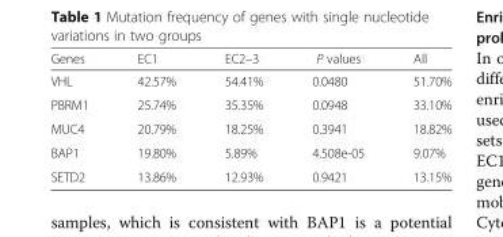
<table><thead><tr><td>Genes</td><td>EC1</td><td>EC2–3</td><td>P values</td><td>All</td></tr></thead><tbody><tr><td>VHL</td><td>42.57%</td><td>54.41%</td><td>0.0480</td><td>51.70%</td></tr><tr><td>PBRM1</td><td>25.74%</td><td>35.35%</td><td>0.0948</td><td>33.10%</td></tr><tr><td>MUC4</td><td>20.79%</td><td>18.25%</td><td>0.3941</td><td>18.82%</td></tr><tr><td>BAP1</td><td>19.80%</td><td>5.89%</td><td>4.508e-05</td><td>9.07%</td></tr><tr><td>SETD2</td><td>13.86%</td><td>12.93%</td><td>0.9421</td><td>13.15%</td></tr></tbody></table>